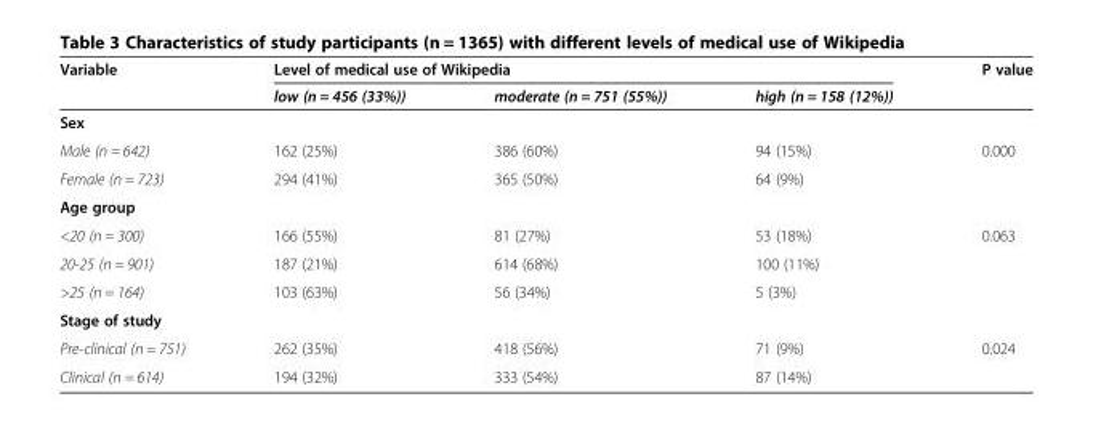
<table><thead><tr><td rowspan="2">Variable</td><td colspan="3">Level of medical use of Wikipedia</td><td rowspan="2">P value</td></tr><tr><td>low (n = 456 (33%))</td><td>moderate (n = 751 (55%))</td><td>high (n = 158 (12%))</td></tr></thead><tbody><tr><td colspan="5">Sex</td></tr><tr><td>Male (n = 642)</td><td>162 (25%)</td><td>386 (60%)</td><td>94 (15%)</td><td rowspan="2">0.000</td></tr><tr><td>Female (n = 723)</td><td>294 (41%)</td><td>365 (50%)</td><td>64 (9%)</td></tr><tr><td colspan="5">Age group</td></tr><tr><td>&lt;20 (n = 300)</td><td>166 (55%)</td><td>81 (27%)</td><td>53 (18%)</td><td rowspan="3">0.063</td></tr><tr><td>20-25 (n = 901)</td><td>187 (21%)</td><td>614 (68%)</td><td>100 (11%)</td></tr><tr><td>&gt;25 (n = 164)</td><td>103 (63%)</td><td>56 (34%)</td><td>5 (3%)</td></tr><tr><td colspan="5">Stage of study</td></tr><tr><td>Pre-clinical (n = 751)</td><td>262 (35%)</td><td>418 (56%)</td><td>71 (9%)</td><td rowspan="2">0.024</td></tr><tr><td>Clinical (n = 614)</td><td>194 (32%)</td><td>333 (54%)</td><td>87 (14%)</td></tr></tbody></table>